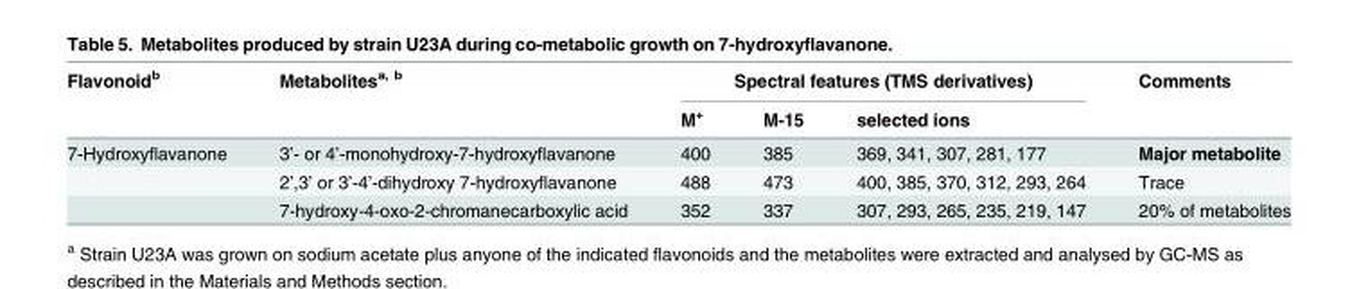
<table><thead><tr><td rowspan="2">Flavonoid<sup>b</sup></td><td rowspan="2">Metabolites<sup>a, b</sup></td><td colspan="3">Spectral features (TMS derivatives)</td><td rowspan="2">Comments</td></tr><tr><td>M<sup>+</sup></td><td>M-15</td><td>selected ions</td></tr></thead><tbody><tr><td rowspan="3">7-Hydroxyflavanone</td><td>3’- or 4’-monohydroxy-7-hydroxyflavanone</td><td>400</td><td>385</td><td>369, 341, 307, 281, 177</td><td>Major metabolite</td></tr><tr><td>2’,3’ or 3’-4’-dihydroxy 7-hydroxyflavanone</td><td>488</td><td>473</td><td>400, 385, 370, 312, 293, 264</td><td>Trace</td></tr><tr><td>7-hydroxy-4-oxo-2-chromanecarboxylic acid</td><td>352</td><td>337</td><td>307, 293, 265, 235, 219, 147</td><td>20% of metabolites</td></tr></tbody></table>